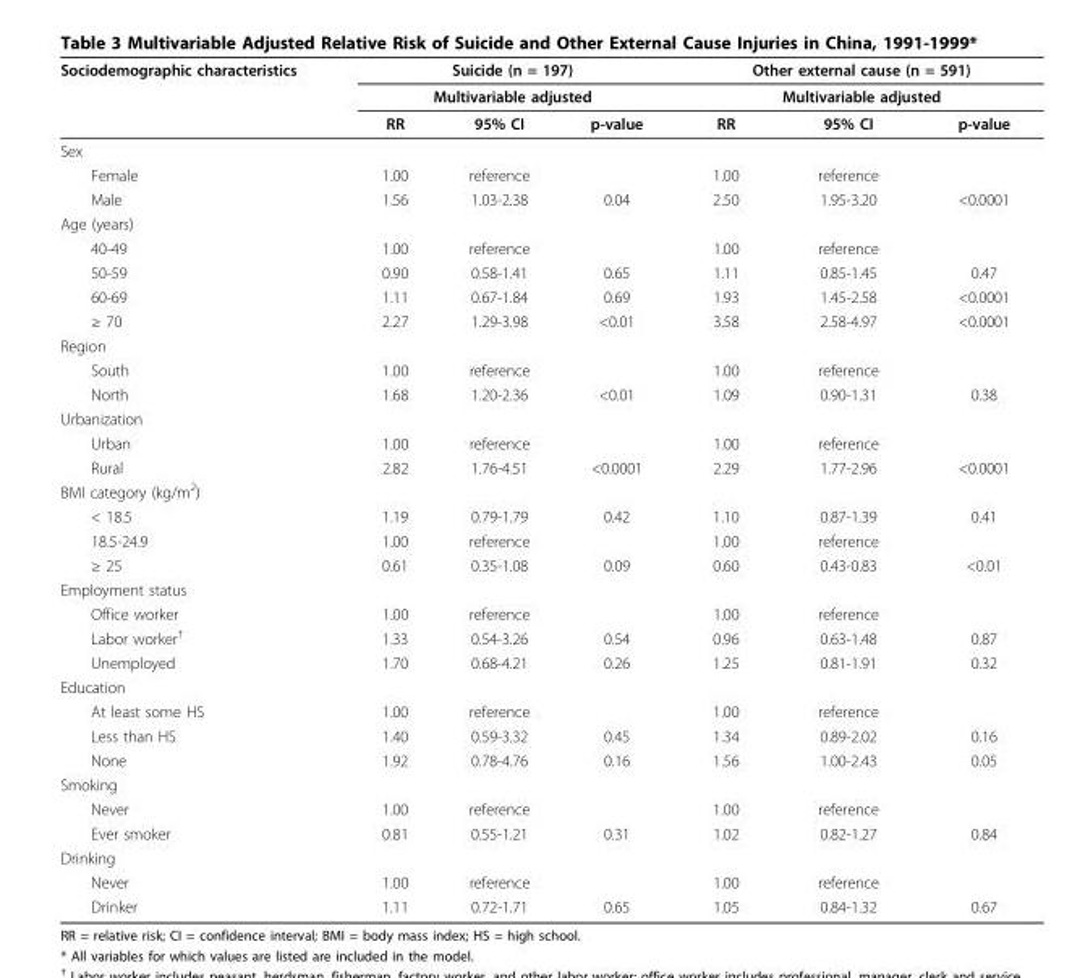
<table><thead><tr><td rowspan="3">Sociodemographic characteristics</td><td rowspan="2" colspan="3">Suicide (n = 197) Multivariable adjusted</td><td rowspan="2" colspan="3">Other external cause (n = 591) Multivariable adjusted</td></tr><tr></tr><tr><td>RR</td><td>95% CI</td><td>p-value</td><td>RR</td><td>95% CI</td><td>p-value</td></tr></thead><tbody><tr><td colspan="7">Sex</td></tr><tr><td>Female</td><td>1.00</td><td>reference</td><td></td><td>1.00</td><td>reference</td><td></td></tr><tr><td>Male</td><td>1.56</td><td>1.03-2.38</td><td>0.04</td><td>2.50</td><td>1.95-3.20</td><td>&lt;0.0001</td></tr><tr><td colspan="7">Age (years)</td></tr><tr><td>40-49</td><td>1.00</td><td>reference</td><td></td><td>1.00</td><td>reference</td><td></td></tr><tr><td>50-59</td><td>0.90</td><td>0.58-1.41</td><td>0.65</td><td>1.11</td><td>0.85-1.45</td><td>0.47</td></tr><tr><td>60-69</td><td>1.11</td><td>0.67-1.84</td><td>0.69</td><td>1.93</td><td>1.45-2.58</td><td>&lt;0.0001</td></tr><tr><td>≥ 70</td><td>2.27</td><td>1.29-3.98</td><td>&lt;0.01</td><td>3.58</td><td>2.58-4.97</td><td>&lt;0.0001</td></tr><tr><td colspan="7">Region</td></tr><tr><td>South</td><td>1.00</td><td>reference</td><td></td><td>1.00</td><td>reference</td><td></td></tr><tr><td>North</td><td>1.68</td><td>1.20-2.36</td><td>&lt;0.01</td><td>1.09</td><td>0.90-1.31</td><td>0.38</td></tr><tr><td colspan="7">Urbanization</td></tr><tr><td>Urban</td><td>1.00</td><td>reference</td><td></td><td>1.00</td><td>reference</td><td></td></tr><tr><td>Rural</td><td>2.82</td><td>1.76-4.51</td><td>&lt;0.0001</td><td>2.29</td><td>1.77-2.96</td><td>&lt;0.0001</td></tr><tr><td colspan="7">BMI category (kg/m<sup>2</sup>)</td></tr><tr><td>&lt; 18.5</td><td>1.19</td><td>0.79-1.79</td><td>0.42</td><td>1.10</td><td>0.87-1.39</td><td>0.41</td></tr><tr><td>18.5-24.9</td><td>1.00</td><td>reference</td><td></td><td>1.00</td><td>reference</td><td></td></tr><tr><td>≥ 25</td><td>0.61</td><td>0.35-1.08</td><td>0.09</td><td>0.60</td><td>0.43-0.83</td><td>&lt;0.01</td></tr><tr><td colspan="7">Employment status</td></tr><tr><td>Office worker</td><td>1.00</td><td>reference</td><td></td><td>1.00</td><td>reference</td><td></td></tr><tr><td>Labor worker<sup>†</sup></td><td>1.33</td><td>0.54-3.26</td><td>0.54</td><td>0.96</td><td>0.63-1.48</td><td>0.87</td></tr><tr><td>Unemployed</td><td>1.70</td><td>0.68-4.21</td><td>0.26</td><td>1.25</td><td>0.81-1.91</td><td>0.32</td></tr><tr><td colspan="7">Education</td></tr><tr><td>At least some HS</td><td>1.00</td><td>reference</td><td></td><td>1.00</td><td>reference</td><td></td></tr><tr><td>Less than HS</td><td>1.40</td><td>0.59-3.32</td><td>0.45</td><td>1.34</td><td>0.89-2.02</td><td>0.16</td></tr><tr><td>None</td><td>1.92</td><td>0.78-4.76</td><td>0.16</td><td>1.56</td><td>1.00-2.43</td><td>0.05</td></tr><tr><td colspan="7">Smoking</td></tr><tr><td>Never</td><td>1.00</td><td>reference</td><td></td><td>1.00</td><td>reference</td><td></td></tr><tr><td>Ever smoker</td><td>0.81</td><td>0.55-1.21</td><td>0.31</td><td>1.02</td><td>0.82-1.27</td><td>0.84</td></tr><tr><td colspan="7">Drinking</td></tr><tr><td>Never</td><td>1.00</td><td>reference</td><td></td><td>1.00</td><td>reference</td><td></td></tr><tr><td>Drinker</td><td>1.11</td><td>0.72-1.71</td><td>0.65</td><td>1.05</td><td>0.84-1.32</td><td>0.67</td></tr></tbody></table>